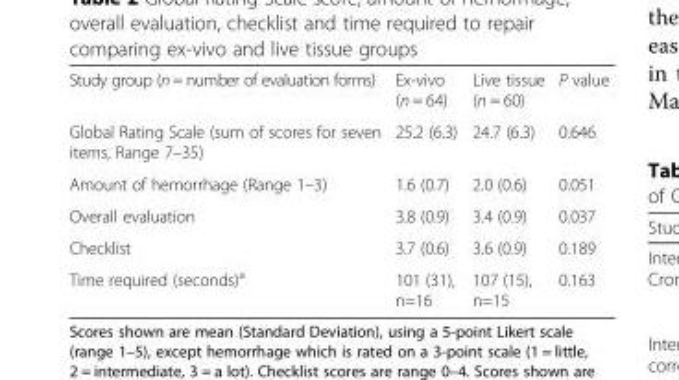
<table><tbody><tr><td>Study group (n = number of evaluation forms)</td><td>Ex-vivo (n = 64)</td><td>Live tissue (n = 60)</td><td>P value</td></tr><tr><td>Global Rating Scale (sum of scores for seven items, Range 7–35)</td><td>25.2 (6.3)</td><td>24.7 (6.3)</td><td>0.646</td></tr><tr><td>Amount of hemorrhage (Range 1–3)</td><td>1.6 (0.7)</td><td>2.0 (0.6)</td><td>0.051</td></tr><tr><td>Overall evaluation</td><td>3.8 (0.9)</td><td>3.4 (0.9)</td><td>0.037</td></tr><tr><td>Checklist</td><td>3.7 (0.6)</td><td>3.6 (0.9)</td><td>0.189</td></tr><tr><td>Time required (seconds)<sup>a</sup></td><td>101 (31), n=16</td><td>107 (15), n=15</td><td>0.163</td></tr></tbody></table>